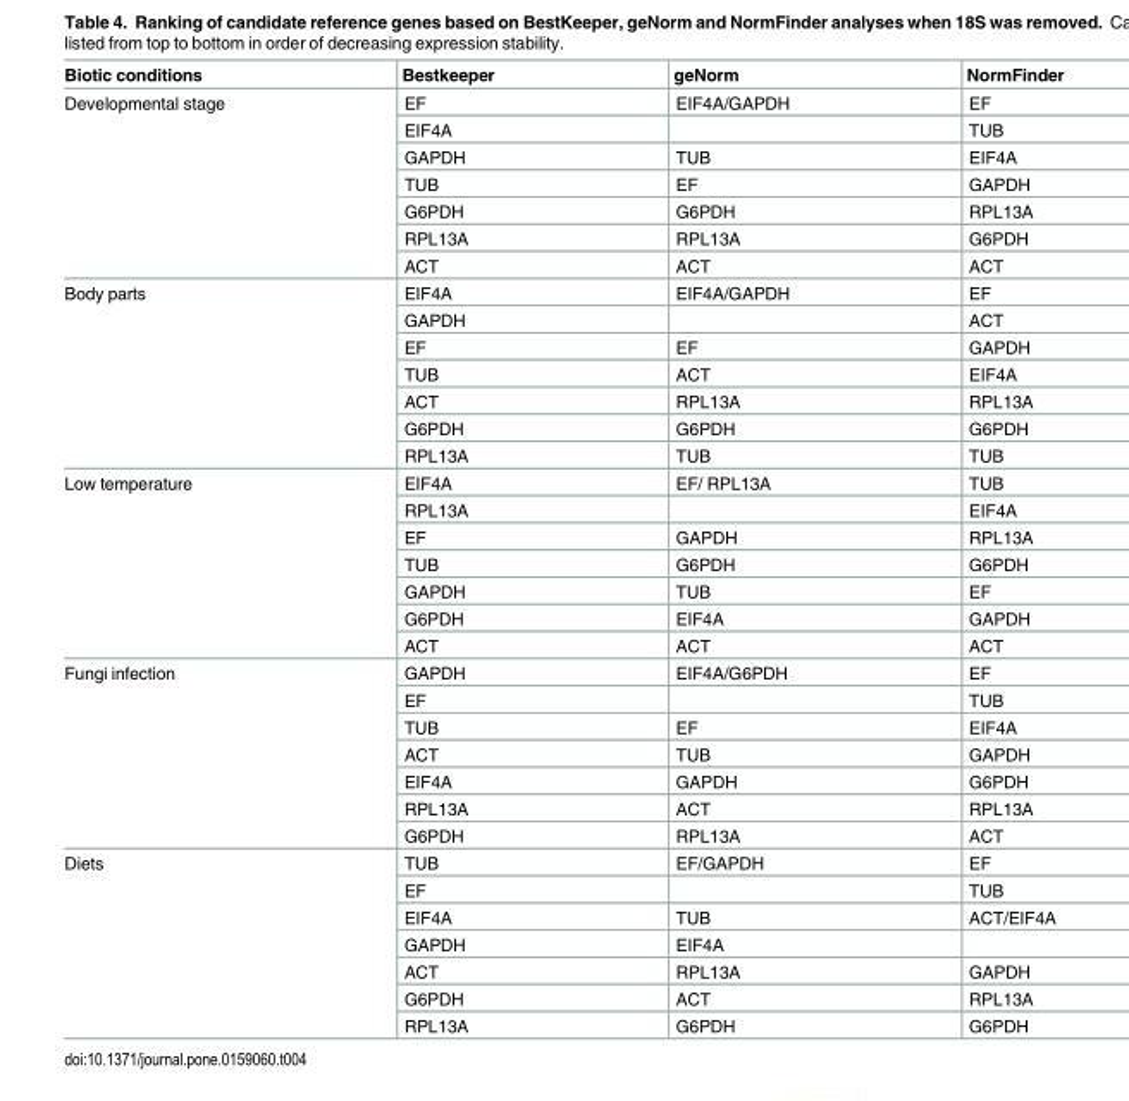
<table><thead><tr><td>Biotic conditions</td><td>Bestkeeper</td><td>geNorm</td><td>NormFinder</td></tr></thead><tbody><tr><td rowspan="7">Developmental stage</td><td>EF</td><td>EIF4A/GAPDH</td><td>EF</td></tr><tr><td>EIF4A</td><td></td><td>TUB</td></tr><tr><td>GAPDH</td><td>TUB</td><td>EIF4A</td></tr><tr><td>TUB</td><td>EF</td><td>GAPDH</td></tr><tr><td>G6PDH</td><td>G6PDH</td><td>RPL13A</td></tr><tr><td>RPL13A</td><td>RPL13A</td><td>G6PDH</td></tr><tr><td>ACT</td><td>ACT</td><td>ACT</td></tr><tr><td rowspan="7">Body parts</td><td>EIF4A</td><td>EIF4A/GAPDH</td><td>EF</td></tr><tr><td>GAPDH</td><td></td><td>ACT</td></tr><tr><td>EF</td><td>EF</td><td>GAPDH</td></tr><tr><td>TUB</td><td>ACT</td><td>EIF4A</td></tr><tr><td>ACT</td><td>RPL13A</td><td>RPL13A</td></tr><tr><td>G6PDH</td><td>G6PDH</td><td>G6PDH</td></tr><tr><td>RPL13A</td><td>TUB</td><td>TUB</td></tr><tr><td rowspan="7">Low temperature</td><td>EIF4A</td><td>EF/ RPL13A</td><td>TUB</td></tr><tr><td>RPL13A</td><td></td><td>EIF4A</td></tr><tr><td>EF</td><td>GAPDH</td><td>RPL13A</td></tr><tr><td>TUB</td><td>G6PDH</td><td>G6PDH</td></tr><tr><td>GAPDH</td><td>TUB</td><td>EF</td></tr><tr><td>G6PDH</td><td>EIF4A</td><td>GAPDH</td></tr><tr><td>ACT</td><td>ACT</td><td>ACT</td></tr><tr><td rowspan="7">Fungi infection</td><td>GAPDH</td><td>EIF4A/G6PDH</td><td>EF</td></tr><tr><td>EF</td><td></td><td>TUB</td></tr><tr><td>TUB</td><td>EF</td><td>EIF4A</td></tr><tr><td>ACT</td><td>TUB</td><td>GAPDH</td></tr><tr><td>EIF4A</td><td>GAPDH</td><td>G6PDH</td></tr><tr><td>RPL13A</td><td>ACT</td><td>RPL13A</td></tr><tr><td>G6PDH</td><td>RPL13A</td><td>ACT</td></tr><tr><td rowspan="7">Diets</td><td>TUB</td><td>EF/GAPDH</td><td>EF</td></tr><tr><td>EF</td><td></td><td>TUB</td></tr><tr><td>EIF4A</td><td>TUB</td><td>ACT/EIF4A</td></tr><tr><td>GAPDH</td><td>EIF4A</td><td></td></tr><tr><td>ACT</td><td>RPL13A</td><td>GAPDH</td></tr><tr><td>G6PDH</td><td>ACT</td><td>RPL13A</td></tr><tr><td>RPL13A</td><td>G6PDH</td><td>G6PDH</td></tr></tbody></table>